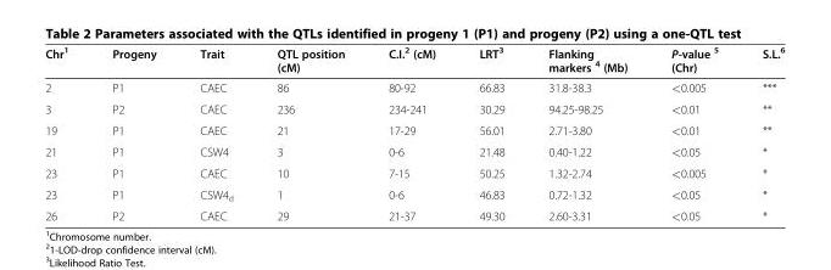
<table><thead><tr><td>Chr<sup>1</sup></td><td>Progeny</td><td>Trait</td><td>QTL position (cM)</td><td>C.I.<sup>2</sup> (cM)</td><td>LRT<sup>3</sup></td><td>Flanking markers <sup>4</sup> (Mb)</td><td>P-value <sup>5</sup> (Chr)</td><td>S.L.<sup>6</sup></td></tr></thead><tbody><tr><td>2</td><td>P1</td><td>CAEC</td><td>86</td><td>80-92</td><td>66.83</td><td>31.8-38.3</td><td>&lt;0.005</td><td>***</td></tr><tr><td>3</td><td>P2</td><td>CAEC</td><td>236</td><td>234-241</td><td>30.29</td><td>94.25-98.25</td><td>&lt;0.01</td><td>**</td></tr><tr><td>19</td><td>P1</td><td>CAEC</td><td>21</td><td>17-29</td><td>56.01</td><td>2.71-3.80</td><td>&lt;0.01</td><td>**</td></tr><tr><td>21</td><td>P1</td><td>CSW4</td><td>3</td><td>0-6</td><td>21.48</td><td>0.40-1.22</td><td>&lt;0.05</td><td>*</td></tr><tr><td>23</td><td>P1</td><td>CAEC</td><td>10</td><td>7-15</td><td>50.25</td><td>1.32-2.74</td><td>&lt;0.005</td><td>*</td></tr><tr><td>23</td><td>P1</td><td>CSW4<sub>d</sub></td><td>1</td><td>0-6</td><td>46.83</td><td>0.72-1.32</td><td>&lt;0.05</td><td>*</td></tr><tr><td>26</td><td>P2</td><td>CAEC</td><td>29</td><td>21-37</td><td>49.30</td><td>2.60-3.31</td><td>&lt;0.05</td><td>*</td></tr></tbody></table>